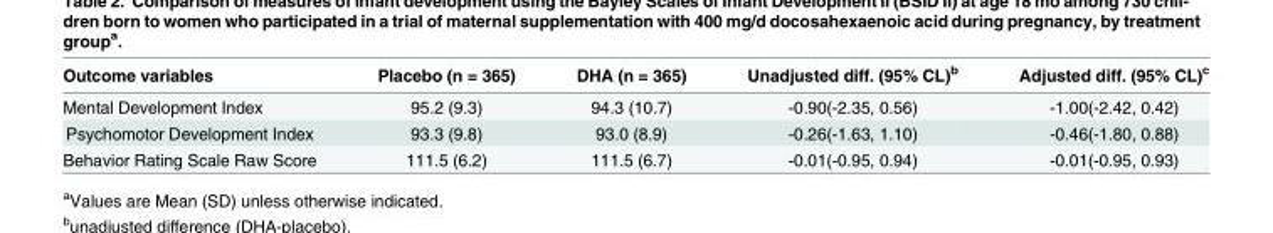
<table><thead><tr><td>Outcome variables</td><td>Placebo (n = 365)</td><td>DHA (n = 365)</td><td>Unadjusted diff. (95% CL)<sup>b</sup></td><td>Adjusted diff. (95% CL)<sup>c</sup></td></tr></thead><tbody><tr><td>Mental Development Index</td><td>95.2 (9.3)</td><td>94.3 (10.7)</td><td>-0.90(-2.35, 0.56)</td><td>-1.00(-2.42, 0.42)</td></tr><tr><td>Psychomotor Development Index</td><td>93.3 (9.8)</td><td>93.0 (8.9)</td><td>-0.26(-1.63, 1.10)</td><td>-0.46(-1.80, 0.88)</td></tr><tr><td>Behavior Rating Scale Raw Score</td><td>111.5 (6.2)</td><td>111.5 (6.7)</td><td>-0.01(-0.95, 0.94)</td><td>-0.01(-0.95, 0.93)</td></tr></tbody></table>